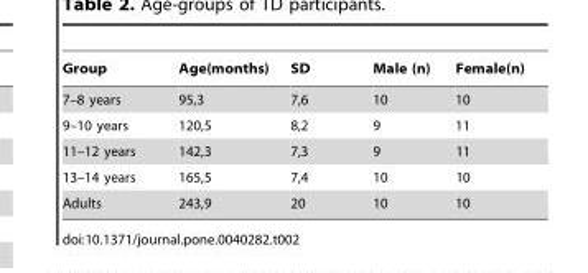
<table><thead><tr><td>Group</td><td>Age(months)</td><td>SD</td><td>Male (n)</td><td>Female(n)</td></tr></thead><tbody><tr><td>7–8 years</td><td>95,3</td><td>7,6</td><td>10</td><td>10</td></tr><tr><td>9–10 years</td><td>120,5</td><td>8,2</td><td>9</td><td>11</td></tr><tr><td>11–12 years</td><td>142,3</td><td>7,3</td><td>9</td><td>11</td></tr><tr><td>13–14 years</td><td>165,5</td><td>7,4</td><td>10</td><td>10</td></tr><tr><td>Adults</td><td>243,9</td><td>20</td><td>10</td><td>10</td></tr></tbody></table>